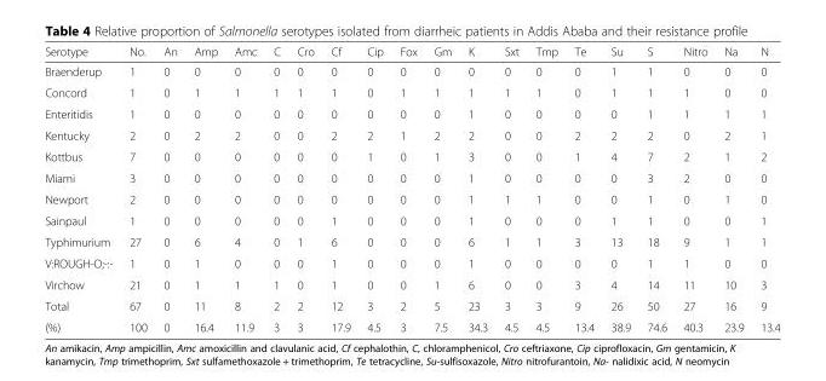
<table><thead><tr><td>Serotype</td><td>No.</td><td>An</td><td>Amp</td><td>Amc</td><td>C</td><td>Cro</td><td>Cf</td><td>Cip</td><td>Fox</td><td>Gm</td><td>K</td><td>Sxt</td><td>Tmp</td><td>Te</td><td>Su</td><td>S</td><td>Nitro</td><td>Na</td><td>N</td></tr></thead><tbody><tr><td>Braenderup</td><td>1</td><td>0</td><td>0</td><td>0</td><td>0</td><td>0</td><td>0</td><td>0</td><td>0</td><td>0</td><td>0</td><td>0</td><td>0</td><td>0</td><td>1</td><td>1</td><td>0</td><td>0</td><td>0</td></tr><tr><td>Concord</td><td>1</td><td>0</td><td>1</td><td>1</td><td>1</td><td>1</td><td>1</td><td>0</td><td>1</td><td>1</td><td>1</td><td>1</td><td>1</td><td>0</td><td>1</td><td>1</td><td>1</td><td>0</td><td>0</td></tr><tr><td>Enteritidis</td><td>1</td><td>0</td><td>0</td><td>0</td><td>0</td><td>0</td><td>0</td><td>0</td><td>0</td><td>0</td><td>1</td><td>0</td><td>0</td><td>0</td><td>0</td><td>1</td><td>1</td><td>1</td><td>1</td></tr><tr><td>Kentucky</td><td>2</td><td>0</td><td>2</td><td>2</td><td>0</td><td>0</td><td>2</td><td>2</td><td>1</td><td>2</td><td>2</td><td>0</td><td>0</td><td>2</td><td>2</td><td>2</td><td>0</td><td>2</td><td>1</td></tr><tr><td>Kottbus</td><td>7</td><td>0</td><td>0</td><td>0</td><td>0</td><td>0</td><td>0</td><td>1</td><td>0</td><td>1</td><td>3</td><td>0</td><td>0</td><td>1</td><td>4</td><td>7</td><td>2</td><td>1</td><td>2</td></tr><tr><td>Miami</td><td>3</td><td>0</td><td>0</td><td>0</td><td>0</td><td>0</td><td>0</td><td>0</td><td>0</td><td>0</td><td>1</td><td>0</td><td>0</td><td>0</td><td>0</td><td>3</td><td>2</td><td>0</td><td>0</td></tr><tr><td>Newport</td><td>2</td><td>0</td><td>0</td><td>0</td><td>0</td><td>0</td><td>0</td><td>0</td><td>0</td><td>0</td><td>1</td><td>1</td><td>1</td><td>0</td><td>0</td><td>1</td><td>0</td><td>1</td><td>0</td></tr><tr><td>Sainpaul</td><td>1</td><td>0</td><td>0</td><td>0</td><td>0</td><td>0</td><td>1</td><td>0</td><td>0</td><td>0</td><td>1</td><td>0</td><td>0</td><td>0</td><td>1</td><td>1</td><td>0</td><td>0</td><td>1</td></tr><tr><td>Typhimurium</td><td>27</td><td>0</td><td>6</td><td>4</td><td>0</td><td>1</td><td>6</td><td>0</td><td>0</td><td>0</td><td>6</td><td>1</td><td>1</td><td>3</td><td>13</td><td>18</td><td>9</td><td>1</td><td>1</td></tr><tr><td>V:ROUGH-O;-:-</td><td>1</td><td>0</td><td>1</td><td>0</td><td>0</td><td>0</td><td>1</td><td>0</td><td>0</td><td>0</td><td>1</td><td>0</td><td>0</td><td>0</td><td>0</td><td>1</td><td>1</td><td>0</td><td>0</td></tr><tr><td>Virchow</td><td>21</td><td>0</td><td>1</td><td>1</td><td>1</td><td>0</td><td>1</td><td>0</td><td>0</td><td>1</td><td>6</td><td>0</td><td>0</td><td>3</td><td>4</td><td>14</td><td>11</td><td>10</td><td>3</td></tr><tr><td>Total</td><td>67</td><td>0</td><td>11</td><td>8</td><td>2</td><td>2</td><td>12</td><td>3</td><td>2</td><td>5</td><td>23</td><td>3</td><td>3</td><td>9</td><td>26</td><td>50</td><td>27</td><td>16</td><td>9</td></tr><tr><td>(%)</td><td>100</td><td>0</td><td>16.4</td><td>11.9</td><td>3</td><td>3</td><td>17.9</td><td>4.5</td><td>3</td><td>7.5</td><td>34.3</td><td>4.5</td><td>4.5</td><td>13.4</td><td>38.9</td><td>74.6</td><td>40.3</td><td>23.9</td><td>13.4</td></tr></tbody></table>